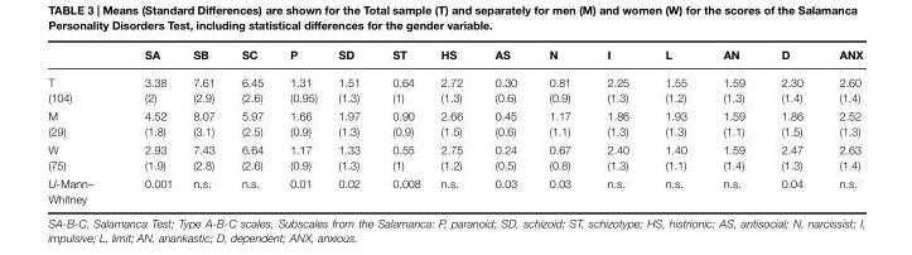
<table><thead><tr><td></td><td>SA</td><td>SB</td><td>SC</td><td>P</td><td>SD</td><td>ST</td><td>HS</td><td>AS</td><td>N</td><td>I</td><td>L</td><td>AN</td><td>D</td><td>ANX</td></tr></thead><tbody><tr><td>T (104)</td><td>3.38 (2)</td><td>7.61 (2.9)</td><td>6.45 (2.6)</td><td>1.31 (0.95)</td><td>1.51 (1.3)</td><td>0.64 (1)</td><td>2.72 (1.3)</td><td>0.30 (0.6)</td><td>0.81 (0.9)</td><td>2.25 (1.3)</td><td>1.55 (1.2)</td><td>1.59 (1.3)</td><td>2.30 (1.4)</td><td>2.60 (1.4)</td></tr><tr><td>M (29)</td><td>4.52 (1.8)</td><td>8.07 (3.1)</td><td>5.97 (2.5)</td><td>1.66 (0.9)</td><td>1.97 (1.3)</td><td>0.90 (0.9)</td><td>2.66 (1.5)</td><td>0.45 (0.6)</td><td>1.17 (1.1)</td><td>1.86 (1.3)</td><td>1.93 (1.3)</td><td>1.59 (1.1)</td><td>1.86 (1.5)</td><td>2.52 (1.3)</td></tr><tr><td>W (75)</td><td>2.93 (1.9)</td><td>7.43 (2.8)</td><td>6.64 (2.6)</td><td>1.17 (0.9)</td><td>1.33 (1.3)</td><td>0.55 (1)</td><td>2.75 (1.2)</td><td>0.24 (0.5)</td><td>0.67 (0.8)</td><td>2.40 (1.3)</td><td>1.40 (1.1)</td><td>1.59 (1.4)</td><td>2.47 (1.3)</td><td>2.63 (1.4)</td></tr><tr><td>U-Mann– Whitney</td><td>0.001</td><td>n.s.</td><td>n.s.</td><td>0.01</td><td>0.02</td><td>0.008</td><td>n.s.</td><td>0.03</td><td>0.03</td><td>n.s.</td><td>n.s.</td><td>n.s.</td><td>0.04</td><td>n.s.</td></tr></tbody></table>